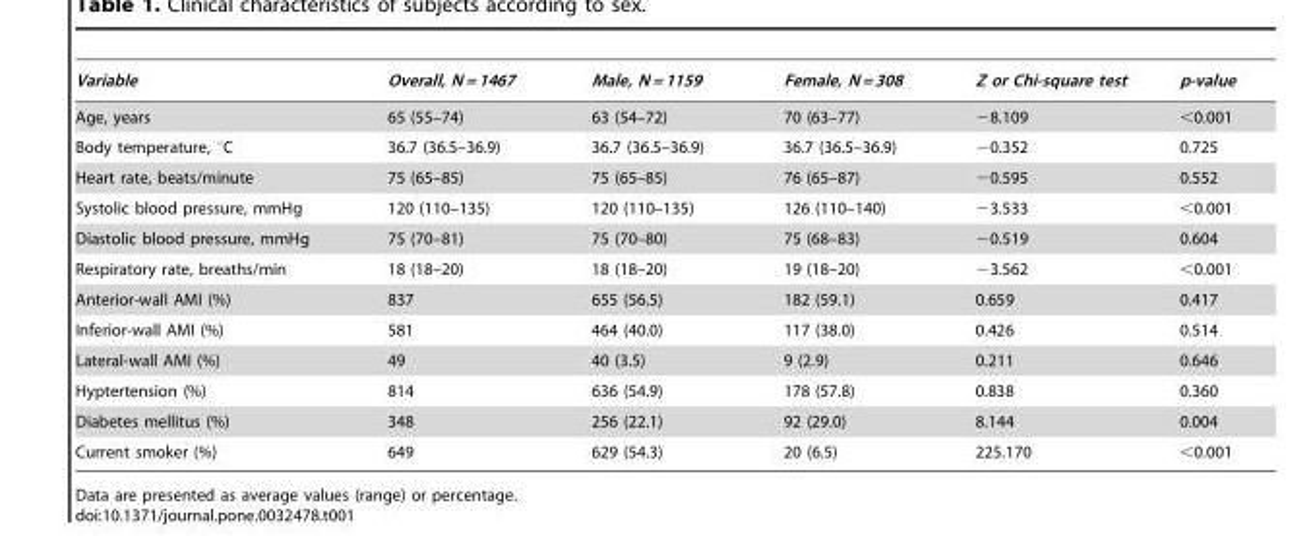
<table><thead><tr><td>Variable</td><td>Overall, N = 1467</td><td>Male, N = 1159</td><td>Female, N = 308</td><td>Z or Chi-square test</td><td>p-value</td></tr></thead><tbody><tr><td>Age, years</td><td>65 (55–74)</td><td>63 (54–72)</td><td>70 (63–77)</td><td>−8.109</td><td>&lt;0.001</td></tr><tr><td>Body temperature, °C</td><td>36.7 (36.5–36.9)</td><td>36.7 (36.5–36.9)</td><td>36.7 (36.5–36.9)</td><td>−0.352</td><td>0.725</td></tr><tr><td>Heart rate, beats/minute</td><td>75 (65–85)</td><td>75 (65–85)</td><td>76 (65–87)</td><td>−0.595</td><td>0.552</td></tr><tr><td>Systolic blood pressure, mmHg</td><td>120 (110–135)</td><td>120 (110–135)</td><td>126 (110–140)</td><td>−3.533</td><td>&lt;0.001</td></tr><tr><td>Diastolic blood pressure, mmHg</td><td>75 (70–81)</td><td>75 (70–80)</td><td>75 (68–83)</td><td>−0.519</td><td>0.604</td></tr><tr><td>Respiratory rate, breaths/min</td><td>18 (18–20)</td><td>18 (18–20)</td><td>19 (18–20)</td><td>−3.562</td><td>&lt;0.001</td></tr><tr><td>Anterior-wall AMI (%)</td><td>837</td><td>655 (56.5)</td><td>182 (59.1)</td><td>0.659</td><td>0.417</td></tr><tr><td>Inferior-wall AMI (%)</td><td>581</td><td>464 (40.0)</td><td>117 (38.0)</td><td>0.426</td><td>0.514</td></tr><tr><td>Lateral-wall AMI (%)</td><td>49</td><td>40 (3.5)</td><td>9 (2.9)</td><td>0.211</td><td>0.646</td></tr><tr><td>Hyptertension (%)</td><td>814</td><td>636 (54.9)</td><td>178 (57.8)</td><td>0.838</td><td>0.360</td></tr><tr><td>Diabetes mellitus (%)</td><td>348</td><td>256 (22.1)</td><td>92 (29.0)</td><td>8.144</td><td>0.004</td></tr><tr><td>Current smoker (%)</td><td>649</td><td>629 (54.3)</td><td>20 (6.5)</td><td>225.170</td><td>&lt;0.001</td></tr></tbody></table>